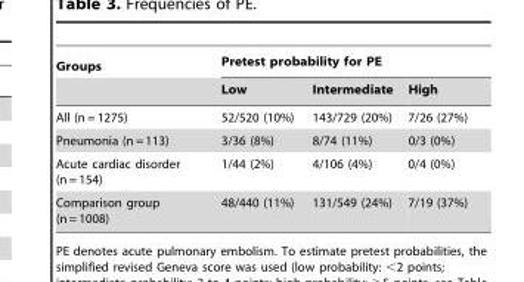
<table><thead><tr><td rowspan="2">Groups</td><td colspan="3">Pretest probability for PE</td></tr><tr><td>Low</td><td>Intermediate</td><td>High</td></tr></thead><tbody><tr><td>All (n = 1275)</td><td>52/520 (10%)</td><td>143/729 (20%)</td><td>7/26 (27%)</td></tr><tr><td>Pneumonia (n = 113)</td><td>3/36 (8%)</td><td>8/74 (11%)</td><td>0/3 (0%)</td></tr><tr><td>Acute cardiac disorder (n = 154)</td><td>1/44 (2%)</td><td>4/106 (4%)</td><td>0/4 (0%)</td></tr><tr><td>Comparison group (n = 1008)</td><td>48/440 (11%)</td><td>131/549 (24%)</td><td>7/19 (37%)</td></tr></tbody></table>